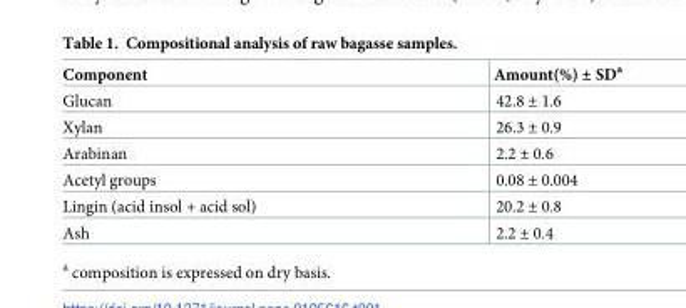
<table><thead><tr><td>Component</td><td>Amount(%) ± SD<sup>a</sup></td></tr></thead><tbody><tr><td>Glucan</td><td>42.8 ± 1.6</td></tr><tr><td>Xylan</td><td>26.3 ± 0.9</td></tr><tr><td>Arabinan</td><td>2.2 ± 0.6</td></tr><tr><td>Acetyl groups</td><td>0.08 ± 0.004</td></tr><tr><td>Lingin (acid insol + acid sol)</td><td>20.2 ± 0.8</td></tr><tr><td>Ash</td><td>2.2 ± 0.4</td></tr></tbody></table>